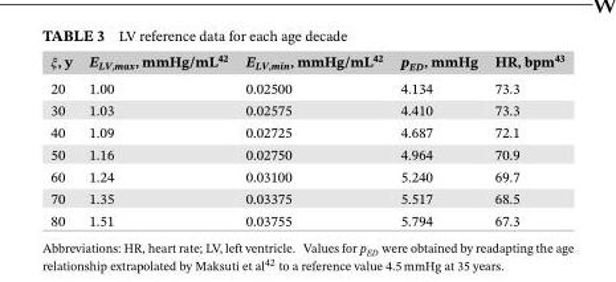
<table><thead><tr><td>𝜉, y</td><td>E<sub>LV,max</sub>, mmHg/mL<sup>42</sup></td><td>E<sub>LV,min</sub>, mmHg/mL<sup>42</sup></td><td>p<sub>ED</sub>, mmHg</td><td>HR, bpm<sup>43</sup></td></tr></thead><tbody><tr><td>20</td><td>1.00</td><td>0.02500</td><td>4.134</td><td>73.3</td></tr><tr><td>30</td><td>1.03</td><td>0.02575</td><td>4.410</td><td>73.3</td></tr><tr><td>40</td><td>1.09</td><td>0.02725</td><td>4.687</td><td>72.1</td></tr><tr><td>50</td><td>1.16</td><td>0.02750</td><td>4.964</td><td>70.9</td></tr><tr><td>60</td><td>1.24</td><td>0.03100</td><td>5.240</td><td>69.7</td></tr><tr><td>70</td><td>1.35</td><td>0.03375</td><td>5.517</td><td>68.5</td></tr><tr><td>80</td><td>1.51</td><td>0.03755</td><td>5.794</td><td>67.3</td></tr></tbody></table>